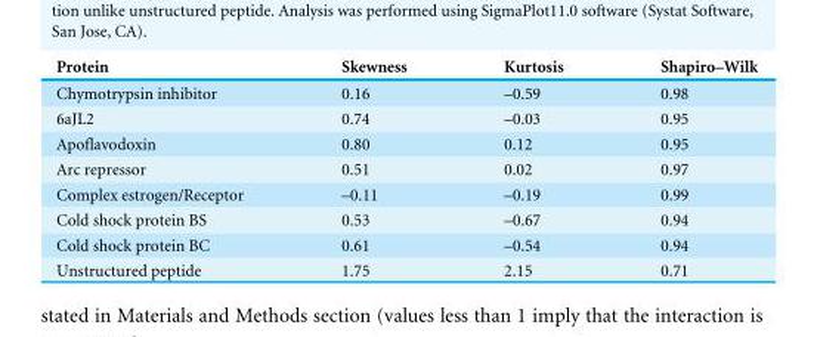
<table><thead><tr><td>Protein</td><td>Skewness</td><td>Kurtosis</td><td>Shapiro–Wilk</td></tr></thead><tbody><tr><td>Chymotrypsin inhibitor</td><td>0.16</td><td>–0.59</td><td>0.98</td></tr><tr><td>6aJL2</td><td>0.74</td><td>–0.03</td><td>0.95</td></tr><tr><td>Apoflavodoxin</td><td>0.80</td><td>0.12</td><td>0.95</td></tr><tr><td>Arc repressor</td><td>0.51</td><td>0.02</td><td>0.97</td></tr><tr><td>Complex estrogen/Receptor</td><td>–0.11</td><td>–0.19</td><td>0.99</td></tr><tr><td>Cold shock protein BS</td><td>0.53</td><td>–0.67</td><td>0.94</td></tr><tr><td>Cold shock protein BC</td><td>0.61</td><td>–0.54</td><td>0.94</td></tr><tr><td>Unstructured peptide</td><td>1.75</td><td>2.15</td><td>0.71</td></tr></tbody></table>